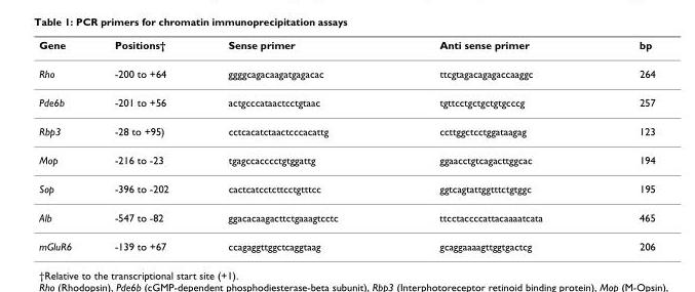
<table><thead><tr><td>Gene</td><td>Positions†</td><td>Sense primer</td><td>Anti sense primer</td><td>bp</td></tr></thead><tbody><tr><td>Rho</td><td>-200 to +64</td><td>ggggcagacaagatgagacac</td><td>ttcgtagacagagaccaaggc</td><td>264</td></tr><tr><td>Pde6b</td><td>-201 to +56</td><td>actgcccataactcctgtaac</td><td>tgttcctgctgctgtgcccg</td><td>257</td></tr><tr><td>Rbp3</td><td>-28 to +95)</td><td>cctcacatctaactcccacattg</td><td>ccttggctcctggataagag</td><td>123</td></tr><tr><td>Mop</td><td>-216 to -23</td><td>tgagccacccctgtggattg</td><td>ggaacctgtcagacttggcac</td><td>194</td></tr><tr><td>Sop</td><td>-396 to -202</td><td>cactcatcctcttcctgtttcc</td><td>ggtcagtattggtttctgtggc</td><td>195</td></tr><tr><td>Alb</td><td>-547 to -82</td><td>ggacacaagacttctgaaagtcctc</td><td>ttcctaccccattacaaaatcata</td><td>465</td></tr><tr><td>mGluR6</td><td>-139 to +67</td><td>ccagaggttggctcaggtaag</td><td>gcaggaaaagttggtgactcg</td><td>206</td></tr></tbody></table>